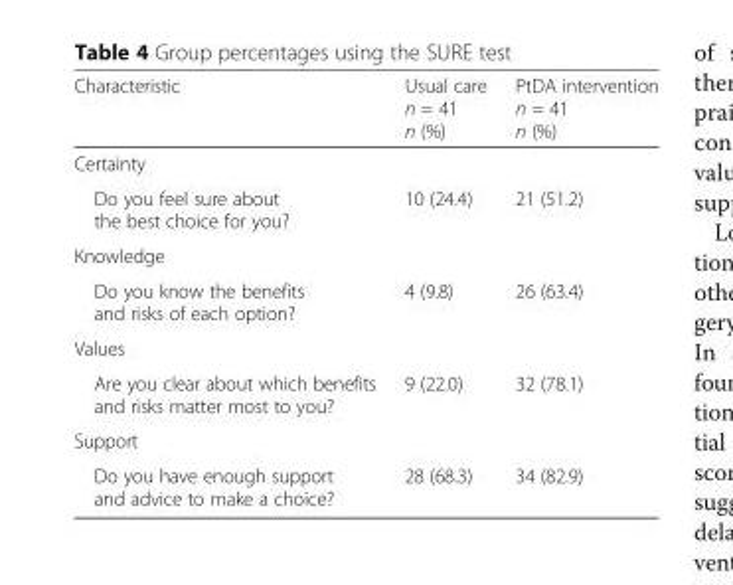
<table><thead><tr><td>Characteristic</td><td>Usual care n = 41 n (%)</td><td>PtDA intervention n = 41 n (%)</td></tr></thead><tbody><tr><td colspan="3">Certainty</td></tr><tr><td>Do you feel sure about the best choice for you?</td><td>10 (24.4)</td><td>21 (51.2)</td></tr><tr><td colspan="3">Knowledge</td></tr><tr><td>Do you know the benefits and risks of each option?</td><td>4 (9.8)</td><td>26 (63.4)</td></tr><tr><td colspan="3">Values</td></tr><tr><td>Are you clear about which benefits and risks matter most to you?</td><td>9 (22.0)</td><td>32 (78.1)</td></tr><tr><td colspan="3">Support</td></tr><tr><td>Do you have enough support and advice to make a choice?</td><td>28 (68.3)</td><td>34 (82.9)</td></tr></tbody></table>